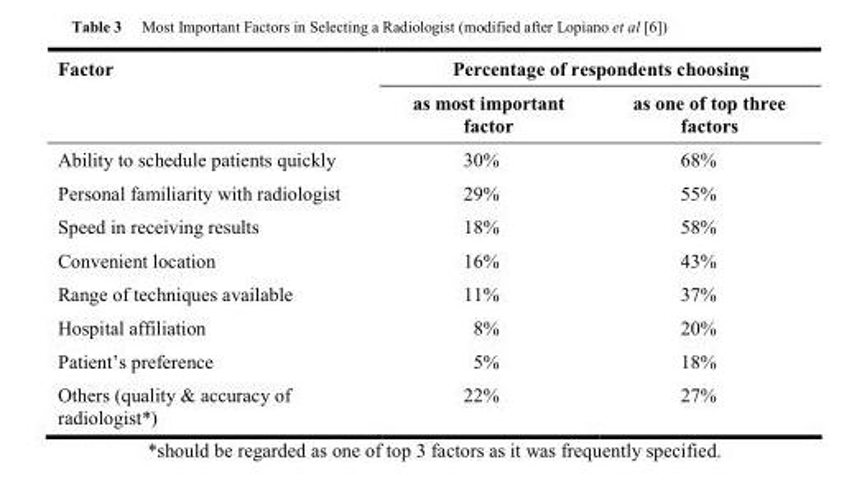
<table><thead><tr><td rowspan="2">Factor</td><td colspan="2">Percentage of respondents choosing</td></tr><tr><td>as most important factor</td><td>as one of top three factors</td></tr></thead><tbody><tr><td>Ability to schedule patients quickly</td><td>30%</td><td>68%</td></tr><tr><td>Personal familiarity with radiologist</td><td>29%</td><td>55%</td></tr><tr><td>Speed in receiving results</td><td>18%</td><td>58%</td></tr><tr><td>Convenient location</td><td>16%</td><td>43%</td></tr><tr><td>Range of techniques available</td><td>11%</td><td>37%</td></tr><tr><td>Hospital affiliation</td><td>8%</td><td>20%</td></tr><tr><td>Patient’s preference</td><td>5%</td><td>18%</td></tr><tr><td>Others (quality &amp; accuracy of radiologist*)</td><td>22%</td><td>27%</td></tr></tbody></table>